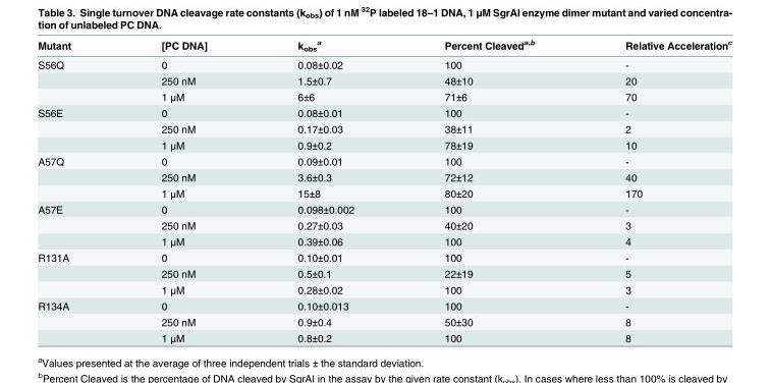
<table><thead><tr><td>Mutant</td><td>[PC DNA]</td><td>k<sub>obs</sub> <sup>a</sup></td><td>Percent Cleaved<sup>a,b</sup></td><td>Relative Acceleration<sup>c</sup></td></tr></thead><tbody><tr><td rowspan="3">S56Q</td><td>0</td><td>0.08±0.02</td><td>100</td><td>-</td></tr><tr><td>250 nM</td><td>1.5±0.7</td><td>48±10</td><td>20</td></tr><tr><td>1 μM</td><td>6±6</td><td>71±6</td><td>70</td></tr><tr><td rowspan="3">S56E</td><td>0</td><td>0.08±0.01</td><td>100</td><td>-</td></tr><tr><td>250 nM</td><td>0.17±0.03</td><td>38±11</td><td>2</td></tr><tr><td>1 μM</td><td>0.9±0.2</td><td>78±19</td><td>10</td></tr><tr><td rowspan="3">A57Q</td><td>0</td><td>0.09±0.01</td><td>100</td><td>-</td></tr><tr><td>250 nM</td><td>3.6±0.3</td><td>72±12</td><td>40</td></tr><tr><td>1 μM</td><td>15±8</td><td>80±20</td><td>170</td></tr><tr><td rowspan="3">A57E</td><td>0</td><td>0.098±0.002</td><td>100</td><td>-</td></tr><tr><td>250 nM</td><td>0.27±0.03</td><td>40±20</td><td>3</td></tr><tr><td>1 μM</td><td>0.39±0.06</td><td>100</td><td>4</td></tr><tr><td rowspan="3">R131A</td><td>0</td><td>0.10±0.01</td><td>100</td><td>-</td></tr><tr><td>250 nM</td><td>0.5±0.1</td><td>22±19</td><td>5</td></tr><tr><td>1 μM</td><td>0.28±0.02</td><td>100</td><td>3</td></tr><tr><td rowspan="3">R134A</td><td>0</td><td>0.10±0.013</td><td>100</td><td>-</td></tr><tr><td>250 nM</td><td>0.9±0.4</td><td>50±30</td><td>8</td></tr><tr><td>1 μM</td><td>0.8±0.2</td><td>100</td><td>8</td></tr></tbody></table>